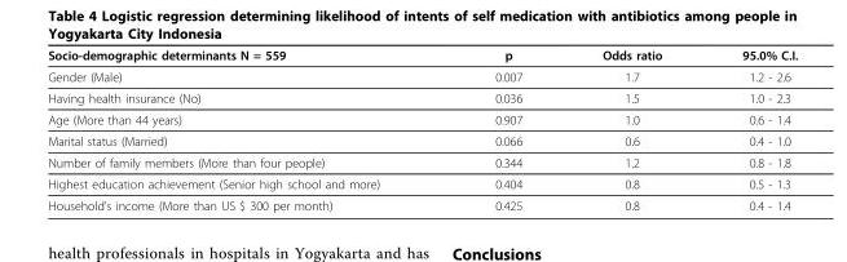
<table><thead><tr><td>Socio-demographic determinants N = 559</td><td>p</td><td>Odds ratio</td><td>95.0% C.I.</td></tr></thead><tbody><tr><td>Gender (Male)</td><td>0.007</td><td>1.7</td><td>1.2 - 2.6</td></tr><tr><td>Having health insurance (No)</td><td>0.036</td><td>1.5</td><td>1.0 - 2.3</td></tr><tr><td>Age (More than 44 years)</td><td>0.907</td><td>1.0</td><td>0.6 - 1.4</td></tr><tr><td>Marital status (Married)</td><td>0.066</td><td>0.6</td><td>0.4 - 1.0</td></tr><tr><td>Number of family members (More than four people)</td><td>0.344</td><td>1.2</td><td>0.8 - 1.8</td></tr><tr><td>Highest education achievement (Senior high school and more)</td><td>0.404</td><td>0.8</td><td>0.5 - 1.3</td></tr><tr><td>Household&#x27;s income (More than US $ 300 per month)</td><td>0.425</td><td>0.8</td><td>0.4 - 1.4</td></tr></tbody></table>